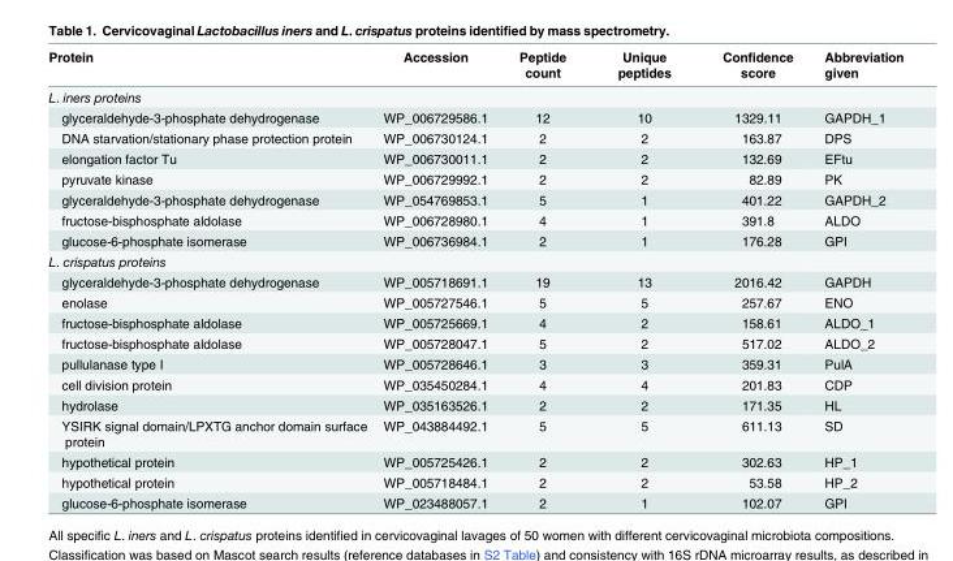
<table><thead><tr><td>Protein</td><td>Accession</td><td>Peptide count</td><td>Unique peptides</td><td>Confidence score</td><td>Abbreviation given</td></tr></thead><tbody><tr><td colspan="6">L. iners proteins</td></tr><tr><td>glyceraldehyde-3-phosphate dehydrogenase</td><td>WP_006729586.1</td><td>12</td><td>10</td><td>1329.11</td><td>GAPDH_1</td></tr><tr><td>DNA starvation/stationary phase protection protein</td><td>WP_006730124.1</td><td>2</td><td>2</td><td>163.87</td><td>DPS</td></tr><tr><td>elongation factor Tu</td><td>WP_006730011.1</td><td>2</td><td>2</td><td>132.69</td><td>EFtu</td></tr><tr><td>pyruvate kinase</td><td>WP_006729992.1</td><td>2</td><td>2</td><td>82.89</td><td>PK</td></tr><tr><td>glyceraldehyde-3-phosphate dehydrogenase</td><td>WP_054769853.1</td><td>5</td><td>1</td><td>401.22</td><td>GAPDH_2</td></tr><tr><td>fructose-bisphosphate aldolase</td><td>WP_006728980.1</td><td>4</td><td>1</td><td>391.8</td><td>ALDO</td></tr><tr><td>glucose-6-phosphate isomerase</td><td>WP_006736984.1</td><td>2</td><td>1</td><td>176.28</td><td>GPI</td></tr><tr><td colspan="6">L. crispatus proteins</td></tr><tr><td>glyceraldehyde-3-phosphate dehydrogenase</td><td>WP_005718691.1</td><td>19</td><td>13</td><td>2016.42</td><td>GAPDH</td></tr><tr><td>enolase</td><td>WP_005727546.1</td><td>5</td><td>5</td><td>257.67</td><td>ENO</td></tr><tr><td>fructose-bisphosphate aldolase</td><td>WP_005725669.1</td><td>4</td><td>2</td><td>158.61</td><td>ALDO_1</td></tr><tr><td>fructose-bisphosphate aldolase</td><td>WP_005728047.1</td><td>5</td><td>2</td><td>517.02</td><td>ALDO_2</td></tr><tr><td>pullulanase type I</td><td>WP_005728646.1</td><td>3</td><td>3</td><td>359.31</td><td>PulA</td></tr><tr><td>cell division protein</td><td>WP_035450284.1</td><td>4</td><td>4</td><td>201.83</td><td>CDP</td></tr><tr><td>hydrolase</td><td>WP_035163526.1</td><td>2</td><td>2</td><td>171.35</td><td>HL</td></tr><tr><td>YSIRK signal domain/LPXTG anchor domain surface protein</td><td>WP_043884492.1</td><td>5</td><td>5</td><td>611.13</td><td>SD</td></tr><tr><td>hypothetical protein</td><td>WP_005725426.1</td><td>2</td><td>2</td><td>302.63</td><td>HP_1</td></tr><tr><td>hypothetical protein</td><td>WP_005718484.1</td><td>2</td><td>2</td><td>53.58</td><td>HP_2</td></tr><tr><td>glucose-6-phosphate isomerase</td><td>WP_023488057.1</td><td>2</td><td>1</td><td>102.07</td><td>GPI</td></tr></tbody></table>